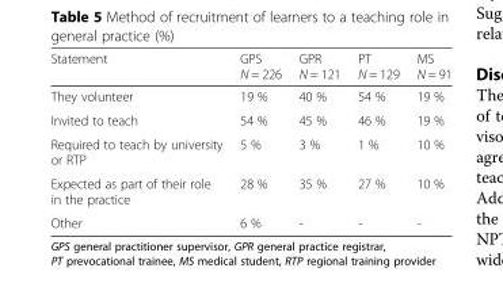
<table><thead><tr><td>Statement</td><td>GPS N = 226</td><td>GPR N = 121</td><td>PT N = 129</td><td>MS N = 91</td></tr></thead><tbody><tr><td>They volunteer</td><td>19 %</td><td>40 %</td><td>54 %</td><td>19 %</td></tr><tr><td>Invited to teach</td><td>54 %</td><td>45 %</td><td>46 %</td><td>19 %</td></tr><tr><td>Required to teach by university or RTP</td><td>5 %</td><td>3 %</td><td>1 %</td><td>10 %</td></tr><tr><td>Expected as part of their role in the practice</td><td>28 %</td><td>35 %</td><td>27 %</td><td>10 %</td></tr><tr><td>Other</td><td>6 %</td><td>-</td><td>-</td><td>-</td></tr></tbody></table>